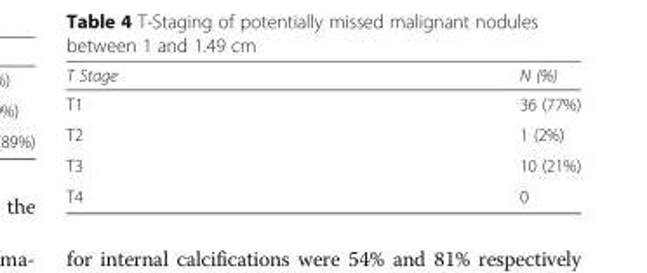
<table><thead><tr><td>T Stage</td><td>N (%)</td></tr></thead><tbody><tr><td>T1</td><td>36 (77%)</td></tr><tr><td>T2</td><td>1 (2%)</td></tr><tr><td>T3</td><td>10 (21%)</td></tr><tr><td>T4</td><td>0</td></tr></tbody></table>